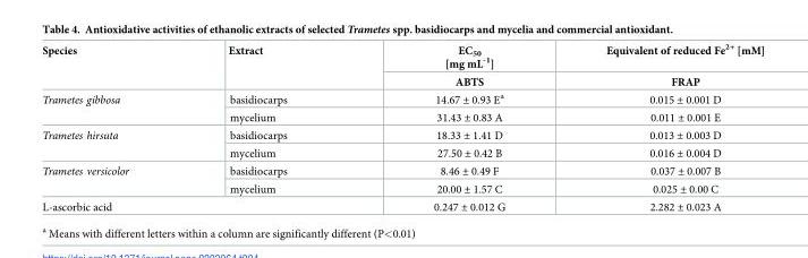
<table><thead><tr><td rowspan="2">Species</td><td rowspan="2">Extract</td><td rowspan="2">EC<sub>50</sub> [mg mL<sup>-1</sup>] ABTS</td><td rowspan="2">Equivalent of reduced Fe<sup>2+</sup> [mM] FRAP</td></tr><tr></tr></thead><tbody><tr><td rowspan="2">Trametes gibbosa</td><td>basidiocarps</td><td>14.67 ± 0.93 E<sup>a</sup></td><td>0.015 ± 0.001 D</td></tr><tr><td>mycelium</td><td>31.43 ± 0.83 A</td><td>0.011 ± 0.001 E</td></tr><tr><td rowspan="2">Trametes hirsuta</td><td>basidiocarps</td><td>18.33 ± 1.41 D</td><td>0.013 ± 0.003 D</td></tr><tr><td>mycelium</td><td>27.50 ± 0.42 B</td><td>0.016 ± 0.004 D</td></tr><tr><td rowspan="2">Trametes versicolor</td><td>basidiocarps</td><td>8.46 ± 0.49 F</td><td>0.037 ± 0.007 B</td></tr><tr><td>mycelium</td><td>20.00 ± 1.57 C</td><td>0.025 ± 0.00 C</td></tr><tr><td colspan="2">L-ascorbic acid</td><td>0.247 ± 0.012 G</td><td>2.282 ± 0.023 A</td></tr></tbody></table>